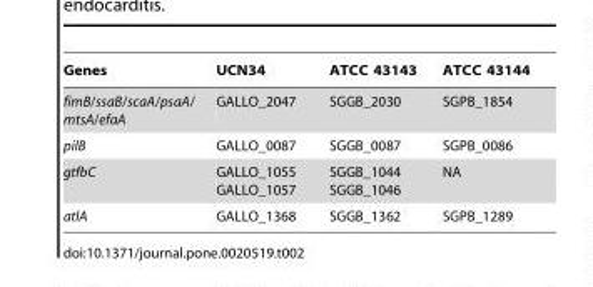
<table><thead><tr><td>Genes</td><td>UCN34</td><td>ATCC 43143</td><td>ATCC 43144</td></tr></thead><tbody><tr><td>fimB/ssaB/scaA/psaA/ mtsA/efaA</td><td>GALLO_2047</td><td>SGGB_2030</td><td>SGPB_1854</td></tr><tr><td>pilB</td><td>GALLO_0087</td><td>SGGB_0087</td><td>SGPB_0086</td></tr><tr><td>gtfbC</td><td>GALLO_1055 GALLO_1057</td><td>SGGB_1044 SGGB_1046</td><td>NA</td></tr><tr><td>atlA</td><td>GALLO_1368</td><td>SGGB_1362</td><td>SGPB_1289</td></tr></tbody></table>